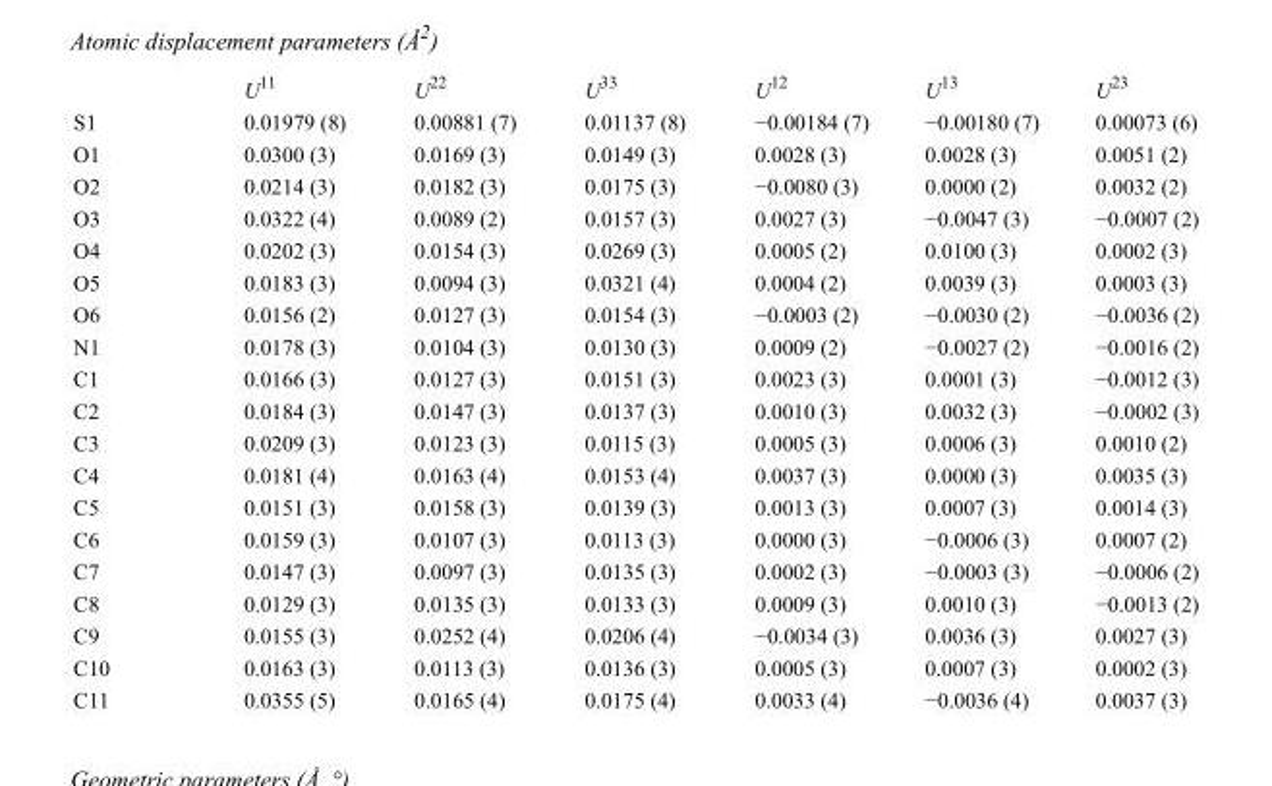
<table><thead><tr><td></td><td>U<sup>11</sup></td><td>U<sup>22</sup></td><td>U<sup>33</sup></td><td>U<sup>12</sup></td><td>U<sup>13</sup></td><td>U<sup>23</sup></td></tr></thead><tbody><tr><td>S1</td><td>0.01979 (8)</td><td>0.00881 (7)</td><td>0.01137 (8)</td><td>−0.00184 (7)</td><td>−0.00180 (7)</td><td>0.00073 (6)</td></tr><tr><td>O1</td><td>0.0300 (3)</td><td>0.0169 (3)</td><td>0.0149 (3)</td><td>0.0028 (3)</td><td>0.0028 (3)</td><td>0.0051 (2)</td></tr><tr><td>O2</td><td>0.0214 (3)</td><td>0.0182 (3)</td><td>0.0175 (3)</td><td>−0.0080 (3)</td><td>0.0000 (2)</td><td>0.0032 (2)</td></tr><tr><td>O3</td><td>0.0322 (4)</td><td>0.0089 (2)</td><td>0.0157 (3)</td><td>0.0027 (3)</td><td>−0.0047 (3)</td><td>−0.0007 (2)</td></tr><tr><td>O4</td><td>0.0202 (3)</td><td>0.0154 (3)</td><td>0.0269 (3)</td><td>0.0005 (2)</td><td>0.0100 (3)</td><td>0.0002 (3)</td></tr><tr><td>O5</td><td>0.0183 (3)</td><td>0.0094 (3)</td><td>0.0321 (4)</td><td>0.0004 (2)</td><td>0.0039 (3)</td><td>0.0003 (3)</td></tr><tr><td>O6</td><td>0.0156 (2)</td><td>0.0127 (3)</td><td>0.0154 (3)</td><td>−0.0003 (2)</td><td>−0.0030 (2)</td><td>−0.0036 (2)</td></tr><tr><td>N1</td><td>0.0178 (3)</td><td>0.0104 (3)</td><td>0.0130 (3)</td><td>0.0009 (2)</td><td>−0.0027 (2)</td><td>−0.0016 (2)</td></tr><tr><td>C1</td><td>0.0166 (3)</td><td>0.0127 (3)</td><td>0.0151 (3)</td><td>0.0023 (3)</td><td>0.0001 (3)</td><td>−0.0012 (3)</td></tr><tr><td>C2</td><td>0.0184 (3)</td><td>0.0147 (3)</td><td>0.0137 (3)</td><td>0.0010 (3)</td><td>0.0032 (3)</td><td>−0.0002 (3)</td></tr><tr><td>C3</td><td>0.0209 (3)</td><td>0.0123 (3)</td><td>0.0115 (3)</td><td>0.0005 (3)</td><td>0.0006 (3)</td><td>0.0010 (2)</td></tr><tr><td>C4</td><td>0.0181 (4)</td><td>0.0163 (4)</td><td>0.0153 (4)</td><td>0.0037 (3)</td><td>0.0000 (3)</td><td>0.0035 (3)</td></tr><tr><td>C5</td><td>0.0151 (3)</td><td>0.0158 (3)</td><td>0.0139 (3)</td><td>0.0013 (3)</td><td>0.0007 (3)</td><td>0.0014 (3)</td></tr><tr><td>C6</td><td>0.0159 (3)</td><td>0.0107 (3)</td><td>0.0113 (3)</td><td>0.0000 (3)</td><td>−0.0006 (3)</td><td>0.0007 (2)</td></tr><tr><td>C7</td><td>0.0147 (3)</td><td>0.0097 (3)</td><td>0.0135 (3)</td><td>0.0002 (3)</td><td>−0.0003 (3)</td><td>−0.0006 (2)</td></tr><tr><td>C8</td><td>0.0129 (3)</td><td>0.0135 (3)</td><td>0.0133 (3)</td><td>0.0009 (3)</td><td>0.0010 (3)</td><td>−0.0013 (2)</td></tr><tr><td>C9</td><td>0.0155 (3)</td><td>0.0252 (4)</td><td>0.0206 (4)</td><td>−0.0034 (3)</td><td>0.0036 (3)</td><td>0.0027 (3)</td></tr><tr><td>C10</td><td>0.0163 (3)</td><td>0.0113 (3)</td><td>0.0136 (3)</td><td>0.0005 (3)</td><td>0.0007 (3)</td><td>0.0002 (3)</td></tr><tr><td>C11</td><td>0.0355 (5)</td><td>0.0165 (4)</td><td>0.0175 (4)</td><td>0.0033 (4)</td><td>−0.0036 (4)</td><td>0.0037 (3)</td></tr></tbody></table>